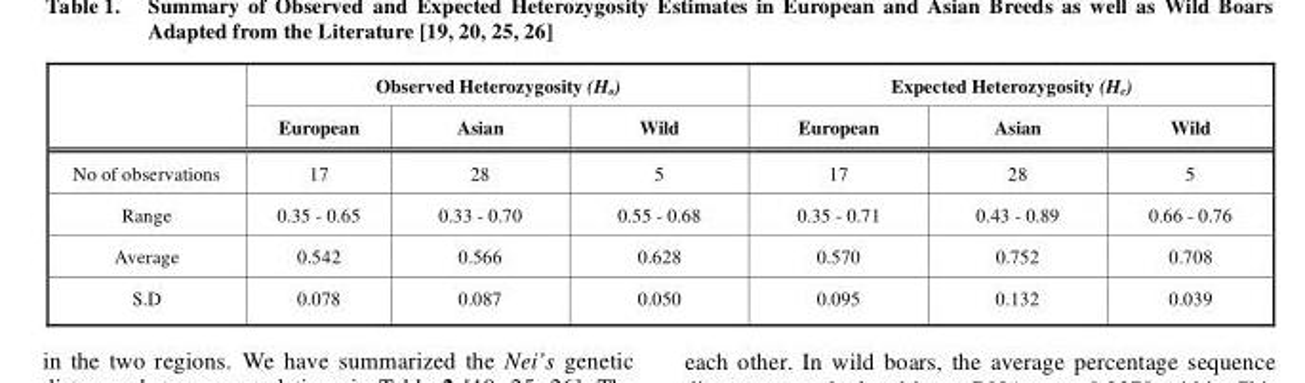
<table><thead><tr><td rowspan="2"></td><td colspan="3">Observed Heterozygosity (H<sub>o</sub>)</td><td colspan="3">Expected Heterozygosity (H<sub>e</sub>)</td></tr><tr><td>European</td><td>Asian</td><td>Wild</td><td>European</td><td>Asian</td><td>Wild</td></tr></thead><tbody><tr><td>No of observations</td><td>17</td><td>28</td><td>5</td><td>17</td><td>28</td><td>5</td></tr><tr><td>Range</td><td>0.35 - 0.65</td><td>0.33 - 0.70</td><td>0.55 - 0.68</td><td>0.35 - 0.71</td><td>0.43 - 0.89</td><td>0.66 - 0.76</td></tr><tr><td>Average</td><td>0.542</td><td>0.566</td><td>0.628</td><td>0.570</td><td>0.752</td><td>0.708</td></tr><tr><td>S.D</td><td>0.078</td><td>0.087</td><td>0.050</td><td>0.095</td><td>0.132</td><td>0.039</td></tr></tbody></table>